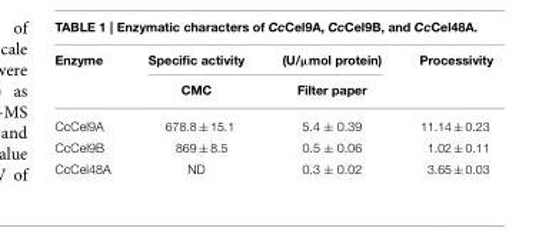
<table><thead><tr><td rowspan="2">Enzyme</td><td rowspan="2">Specific activity CMC</td><td rowspan="2">(U/µmol protein) Filter paper</td><td rowspan="2">Processivity</td></tr><tr></tr></thead><tbody><tr><td>CcCel9A</td><td>678.8 ± 15.1</td><td>5.4 ± 0.39</td><td>11.14 ± 0.23</td></tr><tr><td>CcCel9B</td><td>869 ± 8.5</td><td>0.5 ± 0.06</td><td>1.02 ± 0.11</td></tr><tr><td>CcCel48A</td><td>ND</td><td>0.3 ± 0.02</td><td>3.65 ± 0.03</td></tr></tbody></table>